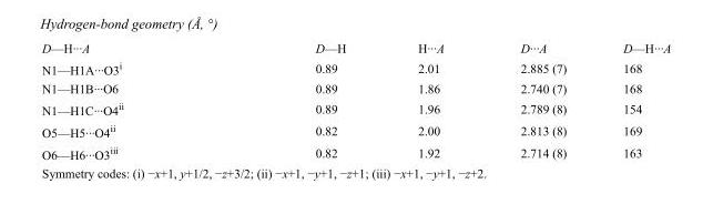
<table><tbody><tr><td>D—H···A</td><td>D—H</td><td>H···A</td><td>D···A</td><td>D—H···A</td></tr><tr><td>N1—H1A···O3<sup>i</sup></td><td>0.89</td><td>2.01</td><td>2.885 (7)</td><td>168</td></tr><tr><td>N1—H1B···O6</td><td>0.89</td><td>1.86</td><td>2.740 (7)</td><td>168</td></tr><tr><td>N1—H1C···O4<sup>ii</sup></td><td>0.89</td><td>1.96</td><td>2.789 (8)</td><td>154</td></tr><tr><td>O5—H5···O4<sup>ii</sup></td><td>0.82</td><td>2.00</td><td>2.813 (8)</td><td>169</td></tr><tr><td>O6—H6···O3<sup>iii</sup></td><td>0.82</td><td>1.92</td><td>2.714 (8)</td><td>163</td></tr></tbody></table>